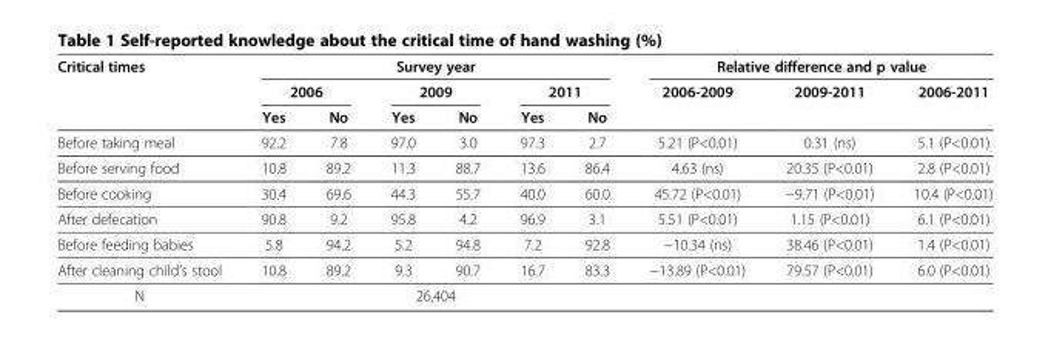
<table><thead><tr><td rowspan="3">Critical times</td><td colspan="6">Survey year</td><td colspan="3">Relative difference and p value</td></tr><tr><td colspan="2">2006</td><td colspan="2">2009</td><td colspan="2">2011</td><td rowspan="2">2006-2009</td><td rowspan="2">2009-2011</td><td rowspan="2">2006-2011</td></tr><tr><td>Yes</td><td>No</td><td>Yes</td><td>No</td><td>Yes</td><td>No</td></tr></thead><tbody><tr><td>Before taking meal</td><td>92.2</td><td>7.8</td><td>97.0</td><td>3.0</td><td>97.3</td><td>2.7</td><td>5.21 (P&lt;0.01)</td><td>0.31 (ns)</td><td>5.1 (P&lt;0.01)</td></tr><tr><td>Before serving food</td><td>10.8</td><td>89.2</td><td>11.3</td><td>88.7</td><td>13.6</td><td>86.4</td><td>4.63 (ns)</td><td>20.35 (P&lt;0.01)</td><td>2.8 (P&lt;0.01)</td></tr><tr><td>Before cooking</td><td>30.4</td><td>69.6</td><td>44.3</td><td>55.7</td><td>40.0</td><td>60.0</td><td>45.72 (P&lt;0.01)</td><td>−9.71 (P&lt;0.01)</td><td>10.4 (P&lt;0.01)</td></tr><tr><td>After defecation</td><td>90.8</td><td>9.2</td><td>95.8</td><td>4.2</td><td>96.9</td><td>3.1</td><td>5.51 (P&lt;0.01)</td><td>1.15 (P&lt;0.01)</td><td>6.1 (P&lt;0.01)</td></tr><tr><td>Before feeding babies</td><td>5.8</td><td>94.2</td><td>5.2</td><td>94.8</td><td>7.2</td><td>92.8</td><td>−10.34 (ns)</td><td>38.46 (P&lt;0.01)</td><td>1.4 (P&lt;0.01)</td></tr><tr><td>After cleaning child’s stool</td><td>10.8</td><td>89.2</td><td>9.3</td><td>90.7</td><td>16.7</td><td>83.3</td><td>−13.89 (P&lt;0.01)</td><td>79.57 (P&lt;0.01)</td><td>6.0 (P&lt;0.01)</td></tr><tr><td>N</td><td colspan="6">26,404</td><td></td><td></td><td></td></tr></tbody></table>